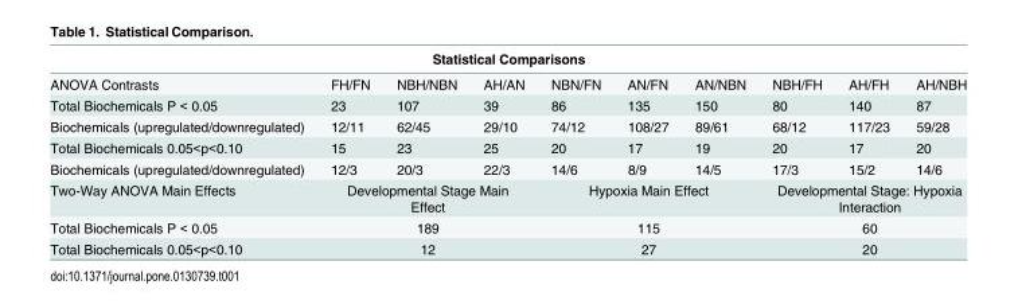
<table><thead><tr><td colspan="10">Statistical Comparisons</td></tr><tr><td>ANOVA Contrasts</td><td>FH/FN</td><td>NBH/NBN</td><td>AH/AN</td><td>NBN/FN</td><td>AN/FN</td><td>AN/NBN</td><td>NBH/FH</td><td>AH/FH</td><td>AH/NBH</td></tr></thead><tbody><tr><td>Total Biochemicals P &lt; 0.05</td><td>23</td><td>107</td><td>39</td><td>86</td><td>135</td><td>150</td><td>80</td><td>140</td><td>87</td></tr><tr><td>Biochemicals (upregulated/downregulated)</td><td>12/11</td><td>62/45</td><td>29/10</td><td>74/12</td><td>108/27</td><td>89/61</td><td>68/12</td><td>117/23</td><td>59/28</td></tr><tr><td>Total Biochemicals 0.05&lt;p&lt;0.10</td><td>15</td><td>23</td><td>25</td><td>20</td><td>17</td><td>19</td><td>20</td><td>17</td><td>20</td></tr><tr><td>Biochemicals (upregulated/downregulated)</td><td>12/3</td><td>20/3</td><td>22/3</td><td>14/6</td><td>8/9</td><td>14/5</td><td>17/3</td><td>15/2</td><td>14/6</td></tr><tr><td>Two-Way ANOVA Main Effects</td><td colspan="3">Developmental Stage Main Effect</td><td colspan="3">Hypoxia Main Effect</td><td colspan="3">Developmental Stage: Hypoxia Interaction</td></tr><tr><td>Total Biochemicals P &lt; 0.05</td><td colspan="3">189</td><td colspan="3">115</td><td colspan="3">60</td></tr><tr><td>Total Biochemicals 0.05&lt;p&lt;0.10</td><td colspan="3">12</td><td colspan="3">27</td><td colspan="3">20</td></tr></tbody></table>